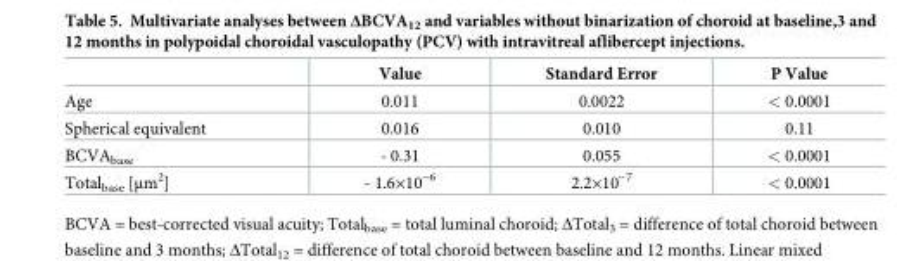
<table><thead><tr><td></td><td>Value</td><td>Standard Error</td><td>P Value</td></tr></thead><tbody><tr><td>Age</td><td>0.011</td><td>0.0022</td><td>&lt; 0.0001</td></tr><tr><td>Spherical equivalent</td><td>0.016</td><td>0.010</td><td>0.11</td></tr><tr><td>BCVA<sub>base</sub></td><td>- 0.31</td><td>0.055</td><td>&lt; 0.0001</td></tr><tr><td>Total<sub>base</sub> [μm<sup>2</sup>]</td><td>- 1.6×10<sup>−6</sup></td><td>2.2×10<sup>−7</sup></td><td>&lt; 0.0001</td></tr></tbody></table>